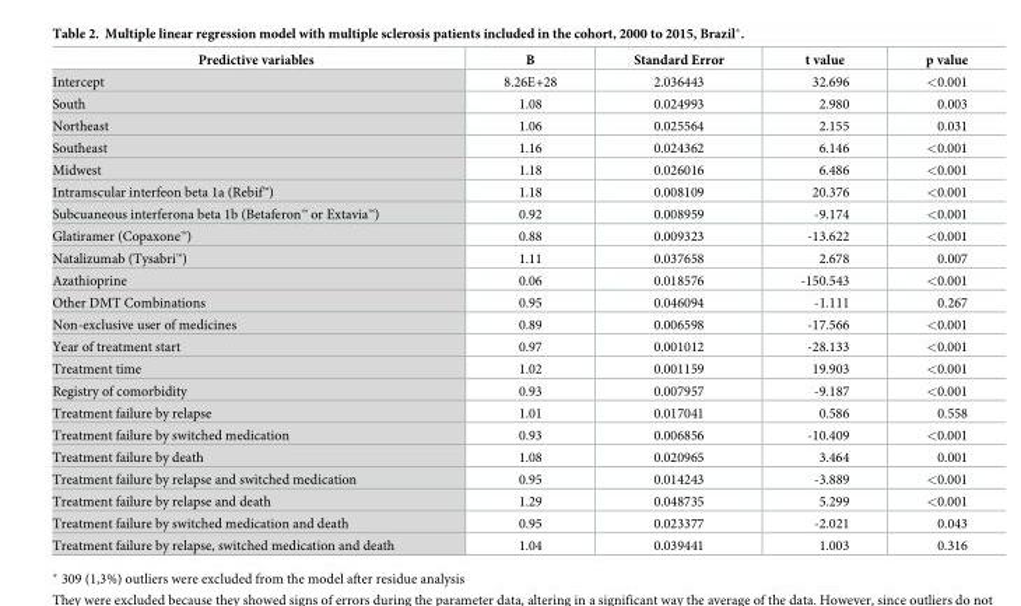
<table><thead><tr><td>Predictive variables</td><td>B</td><td>Standard Error</td><td>t value</td><td>p value</td></tr></thead><tbody><tr><td>Intercept</td><td>8.26E+28</td><td>2.036443</td><td>32.696</td><td>&lt;0.001</td></tr><tr><td>South</td><td>1.08</td><td>0.024993</td><td>2.980</td><td>0.003</td></tr><tr><td>Northeast</td><td>1.06</td><td>0.025564</td><td>2.155</td><td>0.031</td></tr><tr><td>Southeast</td><td>1.16</td><td>0.024362</td><td>6.146</td><td>&lt;0.001</td></tr><tr><td>Midwest</td><td>1.18</td><td>0.026016</td><td>6.486</td><td>&lt;0.001</td></tr><tr><td>Intramscular interfeon beta 1a (Rebif<sup>™</sup>)</td><td>1.18</td><td>0.008109</td><td>20.376</td><td>&lt;0.001</td></tr><tr><td>Subcuaneous interferona beta 1b (Betaferon<sup>™</sup> or Extavia<sup>™</sup>)</td><td>0.92</td><td>0.008959</td><td>-9.174</td><td>&lt;0.001</td></tr><tr><td>Glatiramer (Copaxone<sup>™</sup>)</td><td>0.88</td><td>0.009323</td><td>-13.622</td><td>&lt;0.001</td></tr><tr><td>Natalizumab (Tysabri<sup>™</sup>)</td><td>1.11</td><td>0.037658</td><td>2.678</td><td>0.007</td></tr><tr><td>Azathioprine</td><td>0.06</td><td>0.018576</td><td>-150.543</td><td>&lt;0.001</td></tr><tr><td>Other DMT Combinations</td><td>0.95</td><td>0.046094</td><td>-1.111</td><td>0.267</td></tr><tr><td>Non-exclusive user of medicines</td><td>0.89</td><td>0.006598</td><td>-17.566</td><td>&lt;0.001</td></tr><tr><td>Year of treatment start</td><td>0.97</td><td>0.001012</td><td>-28.133</td><td>&lt;0.001</td></tr><tr><td>Treatment time</td><td>1.02</td><td>0.001159</td><td>19.903</td><td>&lt;0.001</td></tr><tr><td>Registry of comorbidity</td><td>0.93</td><td>0.007957</td><td>-9.187</td><td>&lt;0.001</td></tr><tr><td>Treatment failure by relapse</td><td>1.01</td><td>0.017041</td><td>0.586</td><td>0.558</td></tr><tr><td>Treatment failure by switched medication</td><td>0.93</td><td>0.006856</td><td>-10.409</td><td>&lt;0.001</td></tr><tr><td>Treatment failure by death</td><td>1.08</td><td>0.020965</td><td>3.464</td><td>0.001</td></tr><tr><td>Treatment failure by relapse and switched medication</td><td>0.95</td><td>0.014243</td><td>-3.889</td><td>&lt;0.001</td></tr><tr><td>Treatment failure by relapse and death</td><td>1.29</td><td>0.048735</td><td>5.299</td><td>&lt;0.001</td></tr><tr><td>Treatment failure by switched medication and death</td><td>0.95</td><td>0.023377</td><td>-2.021</td><td>0.043</td></tr><tr><td>Treatment failure by relapse, switched medication and death</td><td>1.04</td><td>0.039441</td><td>1.003</td><td>0.316</td></tr></tbody></table>